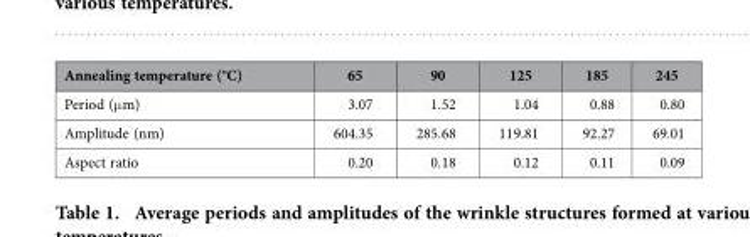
<table><tbody><tr><td>Annealing temperature (°C)</td><td>65</td><td>90</td><td>125</td><td>185</td><td>245</td></tr><tr><td>Period (μ m)</td><td>3.07</td><td>1.52</td><td>1.04</td><td>0.88</td><td>0.80</td></tr><tr><td>Amplitude (nm)</td><td>604.35</td><td>285.68</td><td>119.81</td><td>92.27</td><td>69.01</td></tr><tr><td>Aspect ratio</td><td>0.20</td><td>0.18</td><td>0.12</td><td>0.11</td><td>0.09</td></tr></tbody></table>